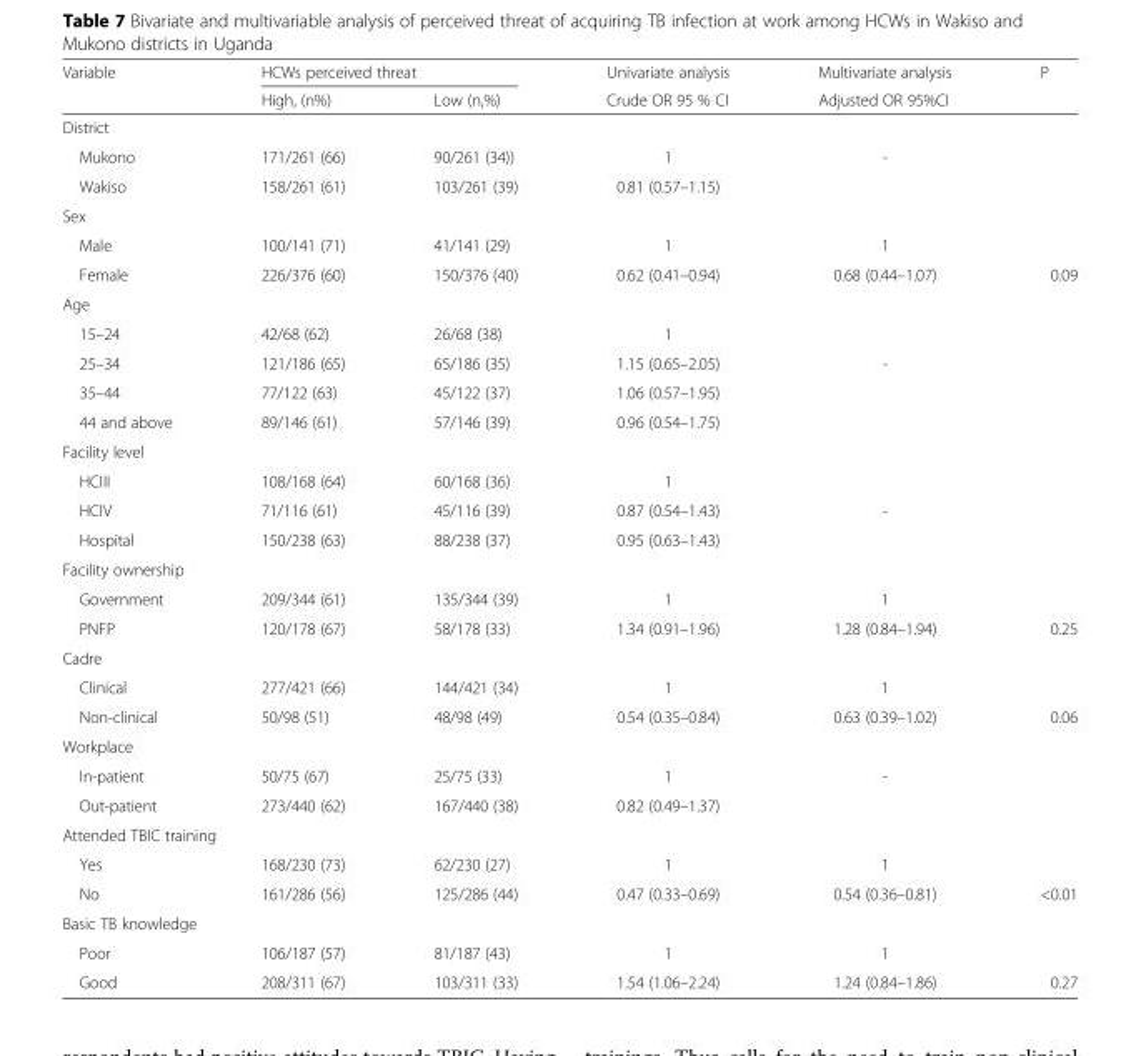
<table><thead><tr><td rowspan="2">Variable</td><td colspan="2">HCWs perceived threat</td><td rowspan="2">Univariate analysis Crude OR 95 % CI</td><td rowspan="2">Multivariate analysis Adjusted OR 95%CI</td><td rowspan="2">P</td></tr><tr><td>High, (n%)</td><td>Low (n,%)</td></tr></thead><tbody><tr><td colspan="6">District</td></tr><tr><td>Mukono</td><td>171/261 (66)</td><td>90/261 (34))</td><td>1</td><td>-</td><td></td></tr><tr><td>Wakiso</td><td>158/261 (61)</td><td>103/261 (39)</td><td>0.81 (0.57–1.15)</td><td></td><td></td></tr><tr><td colspan="6">Sex</td></tr><tr><td>Male</td><td>100/141 (71)</td><td>41/141 (29)</td><td>1</td><td>1</td><td></td></tr><tr><td>Female</td><td>226/376 (60)</td><td>150/376 (40)</td><td>0.62 (0.41–0.94)</td><td>0.68 (0.44–1.07)</td><td>0.09</td></tr><tr><td colspan="6">Age</td></tr><tr><td>15–24</td><td>42/68 (62)</td><td>26/68 (38)</td><td>1</td><td></td><td></td></tr><tr><td>25–34</td><td>121/186 (65)</td><td>65/186 (35)</td><td>1.15 (0.65–2.05)</td><td>-</td><td></td></tr><tr><td>35–44</td><td>77/122 (63)</td><td>45/122 (37)</td><td>1.06 (0.57–1.95)</td><td></td><td></td></tr><tr><td>44 and above</td><td>89/146 (61)</td><td>57/146 (39)</td><td>0.96 (0.54–1.75)</td><td></td><td></td></tr><tr><td colspan="6">Facility level</td></tr><tr><td>HCIII</td><td>108/168 (64)</td><td>60/168 (36)</td><td>1</td><td></td><td></td></tr><tr><td>HCIV</td><td>71/116 (61)</td><td>45/116 (39)</td><td>0.87 (0.54–1.43)</td><td>-</td><td></td></tr><tr><td>Hospital</td><td>150/238 (63)</td><td>88/238 (37)</td><td>0.95 (0.63–1.43)</td><td></td><td></td></tr><tr><td colspan="6">Facility ownership</td></tr><tr><td>Government</td><td>209/344 (61)</td><td>135/344 (39)</td><td>1</td><td>1</td><td></td></tr><tr><td>PNFP</td><td>120/178 (67)</td><td>58/178 (33)</td><td>1.34 (0.91–1.96)</td><td>1.28 (0.84–1.94)</td><td>0.25</td></tr><tr><td colspan="6">Cadre</td></tr><tr><td>Clinical</td><td>277/421 (66)</td><td>144/421 (34)</td><td>1</td><td>1</td><td></td></tr><tr><td>Non-clinical</td><td>50/98 (51)</td><td>48/98 (49)</td><td>0.54 (0.35–0.84)</td><td>0.63 (0.39–1.02)</td><td>0.06</td></tr><tr><td colspan="6">Workplace</td></tr><tr><td>In-patient</td><td>50/75 (67)</td><td>25/75 (33)</td><td>1</td><td>-</td><td></td></tr><tr><td>Out-patient</td><td>273/440 (62)</td><td>167/440 (38)</td><td>0.82 (0.49–1.37)</td><td></td><td></td></tr><tr><td colspan="6">Attended TBIC training</td></tr><tr><td>Yes</td><td>168/230 (73)</td><td>62/230 (27)</td><td>1</td><td>1</td><td></td></tr><tr><td>No</td><td>161/286 (56)</td><td>125/286 (44)</td><td>0.47 (0.33–0.69)</td><td>0.54 (0.36–0.81)</td><td>&lt;0.01</td></tr><tr><td colspan="6">Basic TB knowledge</td></tr><tr><td>Poor</td><td>106/187 (57)</td><td>81/187 (43)</td><td>1</td><td>1</td><td></td></tr><tr><td>Good</td><td>208/311 (67)</td><td>103/311 (33)</td><td>1.54 (1.06–2.24)</td><td>1.24 (0.84–1.86)</td><td>0.27</td></tr></tbody></table>